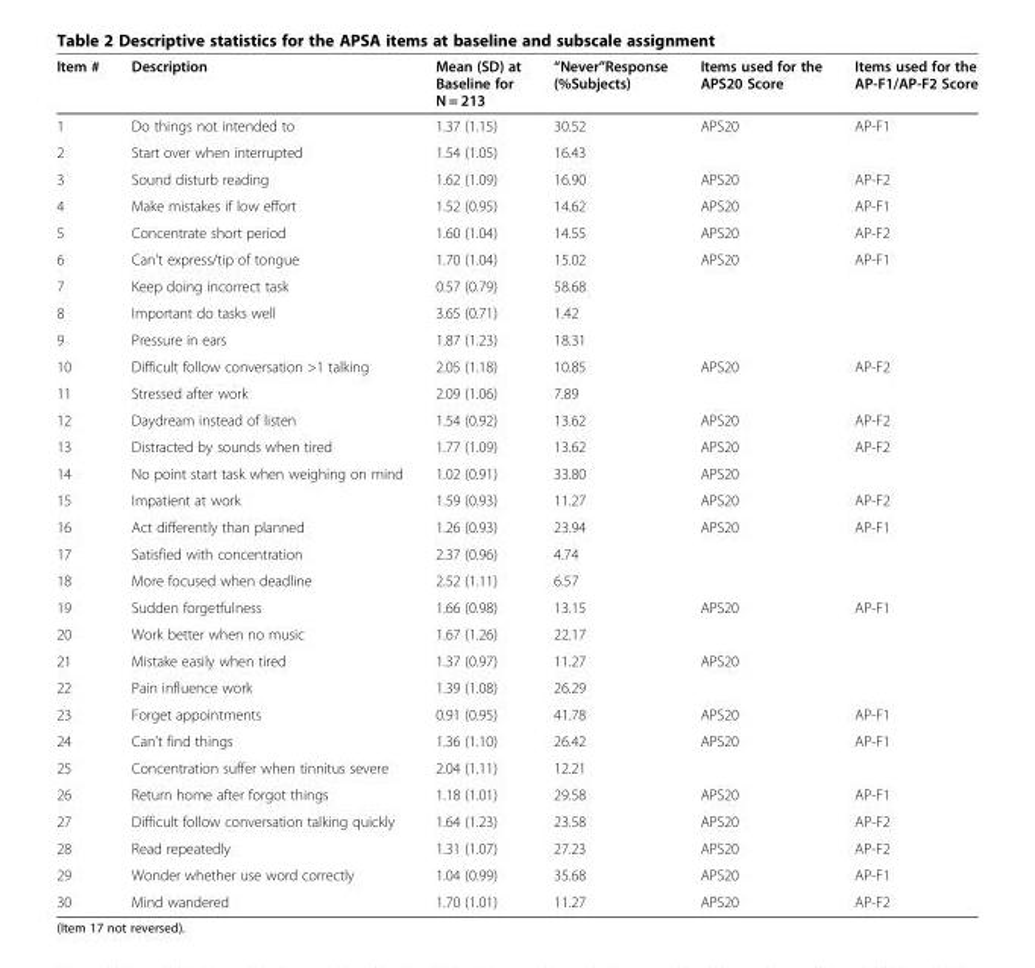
<table><thead><tr><td>Item #</td><td>Description</td><td>Mean (SD) at Baseline for N = 213</td><td>“Never”Response (%Subjects)</td><td>Items used for the APS20 Score</td><td>Items used for the AP-F1/AP-F2 Score</td></tr></thead><tbody><tr><td>1</td><td>Do things not intended to</td><td>1.37 (1.15)</td><td>30.52</td><td>APS20</td><td>AP-F1</td></tr><tr><td>2</td><td>Start over when interrupted</td><td>1.54 (1.05)</td><td>16.43</td><td></td><td></td></tr><tr><td>3</td><td>Sound disturb reading</td><td>1.62 (1.09)</td><td>16.90</td><td>APS20</td><td>AP-F2</td></tr><tr><td>4</td><td>Make mistakes if low effort</td><td>1.52 (0.95)</td><td>14.62</td><td>APS20</td><td>AP-F1</td></tr><tr><td>5</td><td>Concentrate short period</td><td>1.60 (1.04)</td><td>14.55</td><td>APS20</td><td>AP-F2</td></tr><tr><td>6</td><td>Can&#x27;t express/tip of tongue</td><td>1.70 (1.04)</td><td>15.02</td><td>APS20</td><td>AP-F1</td></tr><tr><td>7</td><td>Keep doing incorrect task</td><td>0.57 (0.79)</td><td>58.68</td><td></td><td></td></tr><tr><td>8</td><td>Important do tasks well</td><td>3.65 (0.71)</td><td>1.42</td><td></td><td></td></tr><tr><td>9</td><td>Pressure in ears</td><td>1.87 (1.23)</td><td>18.31</td><td></td><td></td></tr><tr><td>10</td><td>Difficult follow conversation &gt;1 talking</td><td>2.05 (1.18)</td><td>10.85</td><td>APS20</td><td>AP-F2</td></tr><tr><td>11</td><td>Stressed after work</td><td>2.09 (1.06)</td><td>7.89</td><td></td><td></td></tr><tr><td>12</td><td>Daydream instead of listen</td><td>1.54 (0.92)</td><td>13.62</td><td>APS20</td><td>AP-F2</td></tr><tr><td>13</td><td>Distracted by sounds when tired</td><td>1.77 (1.09)</td><td>13.62</td><td>APS20</td><td>AP-F2</td></tr><tr><td>14</td><td>No point start task when weighing on mind</td><td>1.02 (0.91)</td><td>33.80</td><td>APS20</td><td></td></tr><tr><td>15</td><td>Impatient at work</td><td>1.59 (0.93)</td><td>11.27</td><td>APS20</td><td>AP-F2</td></tr><tr><td>16</td><td>Act differently than planned</td><td>1.26 (0.93)</td><td>23.94</td><td>APS20</td><td>AP-F1</td></tr><tr><td>17</td><td>Satisfied with concentration</td><td>2.37 (0.96)</td><td>4.74</td><td></td><td></td></tr><tr><td>18</td><td>More focused when deadline</td><td>2.52 (1.11)</td><td>6.57</td><td></td><td></td></tr><tr><td>19</td><td>Sudden forgetfulness</td><td>1.66 (0.98)</td><td>13.15</td><td>APS20</td><td>AP-F1</td></tr><tr><td>20</td><td>Work better when no music</td><td>1.67 (1.26)</td><td>22.17</td><td></td><td></td></tr><tr><td>21</td><td>Mistake easily when tired</td><td>1.37 (0.97)</td><td>11.27</td><td>APS20</td><td></td></tr><tr><td>22</td><td>Pain influence work</td><td>1.39 (1.08)</td><td>26.29</td><td></td><td></td></tr><tr><td>23</td><td>Forget appointments</td><td>0.91 (0.95)</td><td>41.78</td><td>APS20</td><td>AP-F1</td></tr><tr><td>24</td><td>Can’t find things</td><td>1.36 (1.10)</td><td>26.42</td><td>APS20</td><td>AP-F1</td></tr><tr><td>25</td><td>Concentration suffer when tinnitus severe</td><td>2.04 (1.11)</td><td>12.21</td><td></td><td></td></tr><tr><td>26</td><td>Return home after forgot things</td><td>1.18 (1.01)</td><td>29.58</td><td>APS20</td><td>AP-F1</td></tr><tr><td>27</td><td>Difficult follow conversation talking quickly</td><td>1.64 (1.23)</td><td>23.58</td><td>APS20</td><td>AP-F2</td></tr><tr><td>28</td><td>Read repeatedly</td><td>1.31 (1.07)</td><td>27.23</td><td>APS20</td><td>AP-F2</td></tr><tr><td>29</td><td>Wonder whether use word correctly</td><td>1.04 (0.99)</td><td>35.68</td><td>APS20</td><td>AP-F1</td></tr><tr><td>30</td><td>Mind wandered</td><td>1.70 (1.01)</td><td>11.27</td><td>APS20</td><td>AP-F2</td></tr></tbody></table>